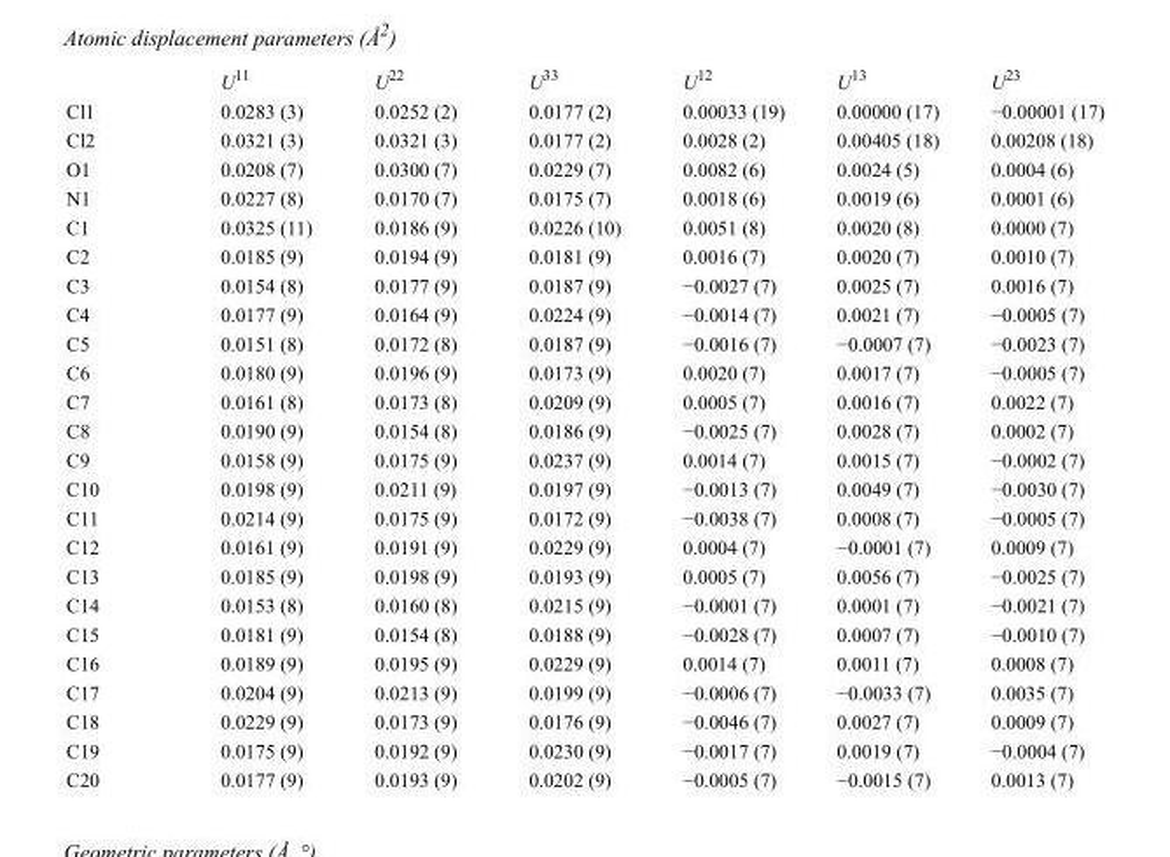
<table><thead><tr><td></td><td>U<sup>11</sup></td><td>U<sup>22</sup></td><td>U<sup>33</sup></td><td>U<sup>12</sup></td><td>U<sup>13</sup></td><td>U<sup>23</sup></td></tr></thead><tbody><tr><td>Cl1</td><td>0.0283 (3)</td><td>0.0252 (2)</td><td>0.0177 (2)</td><td>0.00033 (19)</td><td>0.00000 (17)</td><td>−0.00001 (17)</td></tr><tr><td>Cl2</td><td>0.0321 (3)</td><td>0.0321 (3)</td><td>0.0177 (2)</td><td>0.0028 (2)</td><td>0.00405 (18)</td><td>0.00208 (18)</td></tr><tr><td>O1</td><td>0.0208 (7)</td><td>0.0300 (7)</td><td>0.0229 (7)</td><td>0.0082 (6)</td><td>0.0024 (5)</td><td>0.0004 (6)</td></tr><tr><td>N1</td><td>0.0227 (8)</td><td>0.0170 (7)</td><td>0.0175 (7)</td><td>0.0018 (6)</td><td>0.0019 (6)</td><td>0.0001 (6)</td></tr><tr><td>C1</td><td>0.0325 (11)</td><td>0.0186 (9)</td><td>0.0226 (10)</td><td>0.0051 (8)</td><td>0.0020 (8)</td><td>0.0000 (7)</td></tr><tr><td>C2</td><td>0.0185 (9)</td><td>0.0194 (9)</td><td>0.0181 (9)</td><td>0.0016 (7)</td><td>0.0020 (7)</td><td>0.0010 (7)</td></tr><tr><td>C3</td><td>0.0154 (8)</td><td>0.0177 (9)</td><td>0.0187 (9)</td><td>−0.0027 (7)</td><td>0.0025 (7)</td><td>0.0016 (7)</td></tr><tr><td>C4</td><td>0.0177 (9)</td><td>0.0164 (9)</td><td>0.0224 (9)</td><td>−0.0014 (7)</td><td>0.0021 (7)</td><td>−0.0005 (7)</td></tr><tr><td>C5</td><td>0.0151 (8)</td><td>0.0172 (8)</td><td>0.0187 (9)</td><td>−0.0016 (7)</td><td>−0.0007 (7)</td><td>−0.0023 (7)</td></tr><tr><td>C6</td><td>0.0180 (9)</td><td>0.0196 (9)</td><td>0.0173 (9)</td><td>0.0020 (7)</td><td>0.0017 (7)</td><td>−0.0005 (7)</td></tr><tr><td>C7</td><td>0.0161 (8)</td><td>0.0173 (8)</td><td>0.0209 (9)</td><td>0.0005 (7)</td><td>0.0016 (7)</td><td>0.0022 (7)</td></tr><tr><td>C8</td><td>0.0190 (9)</td><td>0.0154 (8)</td><td>0.0186 (9)</td><td>−0.0025 (7)</td><td>0.0028 (7)</td><td>0.0002 (7)</td></tr><tr><td>C9</td><td>0.0158 (9)</td><td>0.0175 (9)</td><td>0.0237 (9)</td><td>0.0014 (7)</td><td>0.0015 (7)</td><td>−0.0002 (7)</td></tr><tr><td>C10</td><td>0.0198 (9)</td><td>0.0211 (9)</td><td>0.0197 (9)</td><td>−0.0013 (7)</td><td>0.0049 (7)</td><td>−0.0030 (7)</td></tr><tr><td>C11</td><td>0.0214 (9)</td><td>0.0175 (9)</td><td>0.0172 (9)</td><td>−0.0038 (7)</td><td>0.0008 (7)</td><td>−0.0005 (7)</td></tr><tr><td>C12</td><td>0.0161 (9)</td><td>0.0191 (9)</td><td>0.0229 (9)</td><td>0.0004 (7)</td><td>−0.0001 (7)</td><td>0.0009 (7)</td></tr><tr><td>C13</td><td>0.0185 (9)</td><td>0.0198 (9)</td><td>0.0193 (9)</td><td>0.0005 (7)</td><td>0.0056 (7)</td><td>−0.0025 (7)</td></tr><tr><td>C14</td><td>0.0153 (8)</td><td>0.0160 (8)</td><td>0.0215 (9)</td><td>−0.0001 (7)</td><td>0.0001 (7)</td><td>−0.0021 (7)</td></tr><tr><td>C15</td><td>0.0181 (9)</td><td>0.0154 (8)</td><td>0.0188 (9)</td><td>−0.0028 (7)</td><td>0.0007 (7)</td><td>−0.0010 (7)</td></tr><tr><td>C16</td><td>0.0189 (9)</td><td>0.0195 (9)</td><td>0.0229 (9)</td><td>0.0014 (7)</td><td>0.0011 (7)</td><td>0.0008 (7)</td></tr><tr><td>C17</td><td>0.0204 (9)</td><td>0.0213 (9)</td><td>0.0199 (9)</td><td>−0.0006 (7)</td><td>−0.0033 (7)</td><td>0.0035 (7)</td></tr><tr><td>C18</td><td>0.0229 (9)</td><td>0.0173 (9)</td><td>0.0176 (9)</td><td>−0.0046 (7)</td><td>0.0027 (7)</td><td>0.0009 (7)</td></tr><tr><td>C19</td><td>0.0175 (9)</td><td>0.0192 (9)</td><td>0.0230 (9)</td><td>−0.0017 (7)</td><td>0.0019 (7)</td><td>−0.0004 (7)</td></tr><tr><td>C20</td><td>0.0177 (9)</td><td>0.0193 (9)</td><td>0.0202 (9)</td><td>−0.0005 (7)</td><td>−0.0015 (7)</td><td>0.0013 (7)</td></tr></tbody></table>